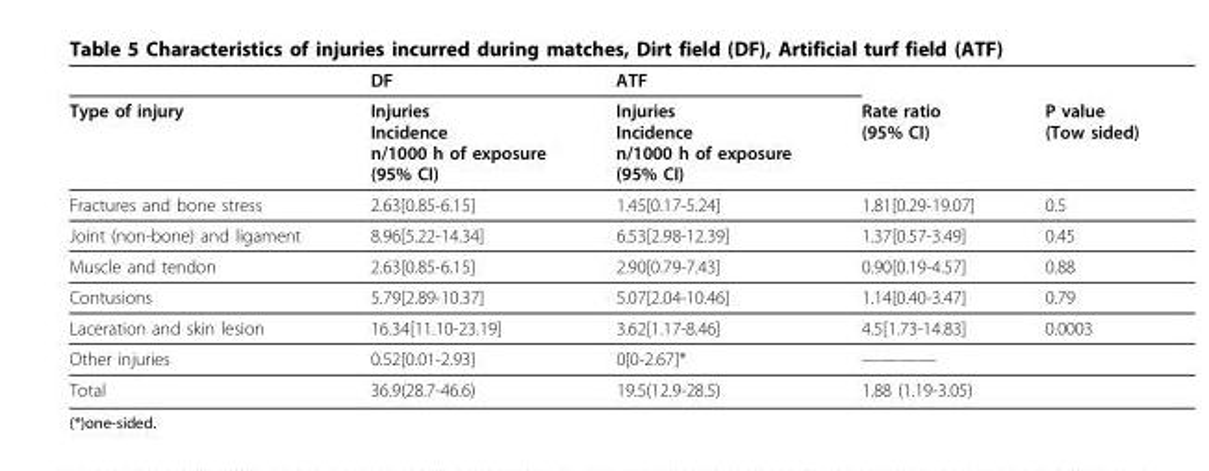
<table><thead><tr><td rowspan="2">Type of injury</td><td rowspan="2">DF Injuries Incidence n/1000 h of exposure (95% CI)</td><td rowspan="2">ATF Injuries Incidence n/1000 h of exposure (95% CI)</td><td rowspan="2">Rate ratio (95% CI)</td><td rowspan="2">P value (Tow sided)</td></tr><tr></tr></thead><tbody><tr><td>Fractures and bone stress</td><td>2.63[0.85-6.15]</td><td>1.45[0.17-5.24]</td><td>1.81[0.29-19.07]</td><td>0.5</td></tr><tr><td>Joint (non-bone) and ligament</td><td>8.96[5.22-14.34]</td><td>6.53[2.98-12.39]</td><td>1.37[0.57-3.49]</td><td>0.45</td></tr><tr><td>Muscle and tendon</td><td>2.63[0.85-6.15]</td><td>2.90[0.79-7.43]</td><td>0.90[0.19-4.57]</td><td>0.88</td></tr><tr><td>Contusions</td><td>5.79[2.89-10.37]</td><td>5.07[2.04-10.46]</td><td>1.14[0.40-3.47]</td><td>0.79</td></tr><tr><td>Laceration and skin lesion</td><td>16.34[11.10-23.19]</td><td>3.62[1.17-8.46]</td><td>4.5[1.73-14.83]</td><td>0.0003</td></tr><tr><td>Other injuries</td><td>0.52[0.01-2.93]</td><td>0[0-2.67]*</td><td>————</td><td></td></tr><tr><td>Total</td><td>36.9(28.7-46.6)</td><td>19.5(12.9-28.5)</td><td>1.88 (1.19-3.05)</td><td></td></tr></tbody></table>